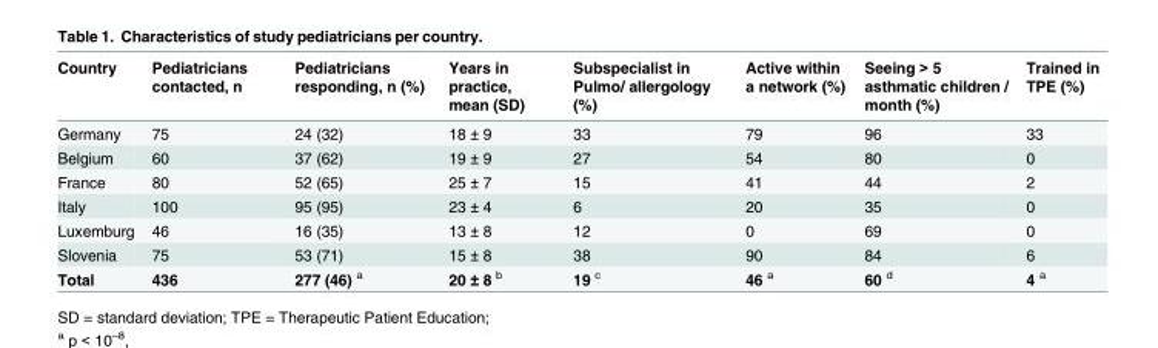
<table><thead><tr><td>Country</td><td>Pediatricians contacted, n</td><td>Pediatricians responding, n (%)</td><td>Years in practice, mean (SD)</td><td>Subspecialist in Pulmo/ allergology (%)</td><td>Active within a network (%)</td><td>Seeing &gt; 5 asthmatic children / month (%)</td><td>Trained in TPE (%)</td></tr></thead><tbody><tr><td>Germany</td><td>75</td><td>24 (32)</td><td>18 ± 9</td><td>33</td><td>79</td><td>96</td><td>33</td></tr><tr><td>Belgium</td><td>60</td><td>37 (62)</td><td>19 ± 9</td><td>27</td><td>54</td><td>80</td><td>0</td></tr><tr><td>France</td><td>80</td><td>52 (65)</td><td>25 ± 7</td><td>15</td><td>41</td><td>44</td><td>2</td></tr><tr><td>Italy</td><td>100</td><td>95 (95)</td><td>23 ± 4</td><td>6</td><td>20</td><td>35</td><td>0</td></tr><tr><td>Luxemburg</td><td>46</td><td>16 (35)</td><td>13 ± 8</td><td>12</td><td>0</td><td>69</td><td>0</td></tr><tr><td>Slovenia</td><td>75</td><td>53 (71)</td><td>15 ± 8</td><td>38</td><td>90</td><td>84</td><td>6</td></tr><tr><td>Total</td><td>436</td><td>277 (46) <sup>a</sup></td><td>20 ± 8 <sup>b</sup></td><td>19 <sup>c</sup></td><td>46 <sup>a</sup></td><td>60 <sup>d</sup></td><td>4 <sup>a</sup></td></tr></tbody></table>